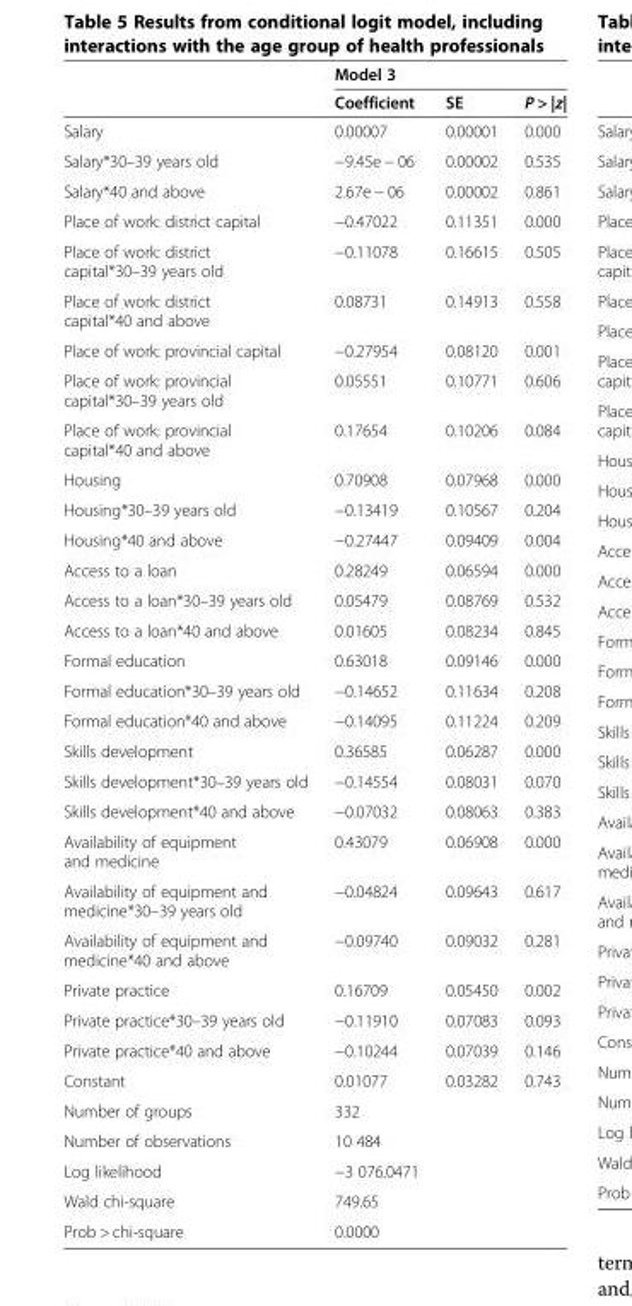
<table><thead><tr><td rowspan="2"></td><td colspan="3">Model 3</td></tr><tr><td>Coefficient</td><td>SE</td><td>P &gt; |z|</td></tr></thead><tbody><tr><td>Salary</td><td>0.00007</td><td>0.00001</td><td>0.000</td></tr><tr><td>Salary*30–39 years old</td><td>−9.45e − 06</td><td>0.00002</td><td>0.535</td></tr><tr><td>Salary*40 and above</td><td>2.67e − 06</td><td>0.00002</td><td>0.861</td></tr><tr><td>Place of work: district capital</td><td>−0.47022</td><td>0.11351</td><td>0.000</td></tr><tr><td>Place of work: district capital*30–39 years old</td><td>−0.11078</td><td>0.16615</td><td>0.505</td></tr><tr><td>Place of work: district capital*40 and above</td><td>0.08731</td><td>0.14913</td><td>0.558</td></tr><tr><td>Place of work: provincial capital</td><td>−0.27954</td><td>0.08120</td><td>0.001</td></tr><tr><td>Place of work: provincial capital*30–39 years old</td><td>0.05551</td><td>0.10771</td><td>0.606</td></tr><tr><td>Place of work: provincial capital*40 and above</td><td>0.17654</td><td>0.10206</td><td>0.084</td></tr><tr><td>Housing</td><td>0.70908</td><td>0.07968</td><td>0.000</td></tr><tr><td>Housing*30–39 years old</td><td>−0.13419</td><td>0.10567</td><td>0.204</td></tr><tr><td>Housing*40 and above</td><td>−0.27447</td><td>0.09409</td><td>0.004</td></tr><tr><td>Access to a loan</td><td>0.28249</td><td>0.06594</td><td>0.000</td></tr><tr><td>Access to a loan*30–39 years old</td><td>0.05479</td><td>0.08769</td><td>0.532</td></tr><tr><td>Access to a loan*40 and above</td><td>0.01605</td><td>0.08234</td><td>0.845</td></tr><tr><td>Formal education</td><td>0.63018</td><td>0.09146</td><td>0.000</td></tr><tr><td>Formal education*30–39 years old</td><td>−0.14652</td><td>0.11634</td><td>0.208</td></tr><tr><td>Formal education*40 and above</td><td>−0.14095</td><td>0.11224</td><td>0.209</td></tr><tr><td>Skills development</td><td>0.36585</td><td>0.06287</td><td>0.000</td></tr><tr><td>Skills development*30–39 years old</td><td>−0.14554</td><td>0.08031</td><td>0.070</td></tr><tr><td>Skills development*40 and above</td><td>−0.07032</td><td>0.08063</td><td>0.383</td></tr><tr><td>Availability of equipment and medicine</td><td>0.43079</td><td>0.06908</td><td>0.000</td></tr><tr><td>Availability of equipment and medicine*30–39 years old</td><td>−0.04824</td><td>0.09643</td><td>0.617</td></tr><tr><td>Availability of equipment and medicine*40 and above</td><td>−0.09740</td><td>0.09032</td><td>0.281</td></tr><tr><td>Private practice</td><td>0.16709</td><td>0.05450</td><td>0.002</td></tr><tr><td>Private practice*30–39 years old</td><td>−0.11910</td><td>0.07083</td><td>0.093</td></tr><tr><td>Private practice*40 and above</td><td>−0.10244</td><td>0.07039</td><td>0.146</td></tr><tr><td>Constant</td><td>0.01077</td><td>0.03282</td><td>0.743</td></tr><tr><td>Number of groups</td><td>332</td><td></td><td></td></tr><tr><td>Number of observations</td><td>10 484</td><td></td><td></td></tr><tr><td>Log likelihood</td><td>−3 076.0471</td><td></td><td></td></tr><tr><td>Wald chi-square</td><td>749.65</td><td></td><td></td></tr><tr><td>Prob &gt; chi-square</td><td>0.0000</td><td></td><td></td></tr></tbody></table>